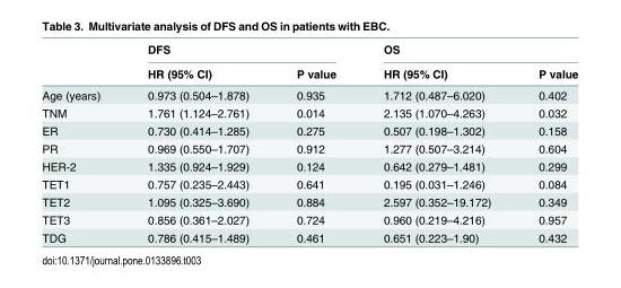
<table><thead><tr><td rowspan="2"></td><td colspan="2">DFS</td><td colspan="2">OS</td></tr><tr><td>HR (95% CI)</td><td>P value</td><td>HR (95% CI)</td><td>P value</td></tr></thead><tbody><tr><td>Age (years)</td><td>0.973 (0.504–1.878)</td><td>0.935</td><td>1.712 (0.487–6.020)</td><td>0.402</td></tr><tr><td>TNM</td><td>1.761 (1.124–2.761)</td><td>0.014</td><td>2.135 (1.070–4.263)</td><td>0.032</td></tr><tr><td>ER</td><td>0.730 (0.414–1.285)</td><td>0.275</td><td>0.507 (0.198–1.302)</td><td>0.158</td></tr><tr><td>PR</td><td>0.969 (0.550–1.707)</td><td>0.912</td><td>1.277 (0.507–3.214)</td><td>0.604</td></tr><tr><td>HER-2</td><td>1.335 (0.924–1.929)</td><td>0.124</td><td>0.642 (0.279–1.481)</td><td>0.299</td></tr><tr><td>TET1</td><td>0.757 (0.235–2.443)</td><td>0.641</td><td>0.195 (0.031–1.246)</td><td>0.084</td></tr><tr><td>TET2</td><td>1.095 (0.325–3.690)</td><td>0.884</td><td>2.597 (0.352–19.172)</td><td>0.349</td></tr><tr><td>TET3</td><td>0.856 (0.361–2.027)</td><td>0.724</td><td>0.960 (0.219–4.216)</td><td>0.957</td></tr><tr><td>TDG</td><td>0.786 (0.415–1.489)</td><td>0.461</td><td>0.651 (0.223–1.90)</td><td>0.432</td></tr></tbody></table>